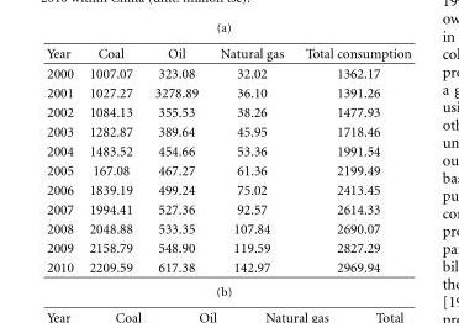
<table><thead><tr><td>Year</td><td>Coal</td><td>Oil</td><td>Natural gas</td><td>Total consumption</td></tr></thead><tbody><tr><td>2000</td><td>1007.07</td><td>323.08</td><td>32.02</td><td>1362.17</td></tr><tr><td>2001</td><td>1027.27</td><td>3278.89</td><td>36.10</td><td>1391.26</td></tr><tr><td>2002</td><td>1084.13</td><td>355.53</td><td>38.26</td><td>1477.93</td></tr><tr><td>2003</td><td>1282.87</td><td>389.64</td><td>45.95</td><td>1718.46</td></tr><tr><td>2004</td><td>1483.52</td><td>454.66</td><td>53.36</td><td>1991.54</td></tr><tr><td>2005</td><td>167.08</td><td>467.27</td><td>61.36</td><td>2199.49</td></tr><tr><td>2006</td><td>1839.19</td><td>499.24</td><td>75.02</td><td>2413.45</td></tr><tr><td>2007</td><td>1994.41</td><td>527.36</td><td>92.57</td><td>2614.33</td></tr><tr><td>2008</td><td>2048.88</td><td>533.35</td><td>107.84</td><td>2690.07</td></tr><tr><td>2009</td><td>2158.79</td><td>548.90</td><td>119.59</td><td>2827.29</td></tr><tr><td>2010</td><td>2209.59</td><td>617.38</td><td>142.97</td><td>2969.94</td></tr></tbody></table>